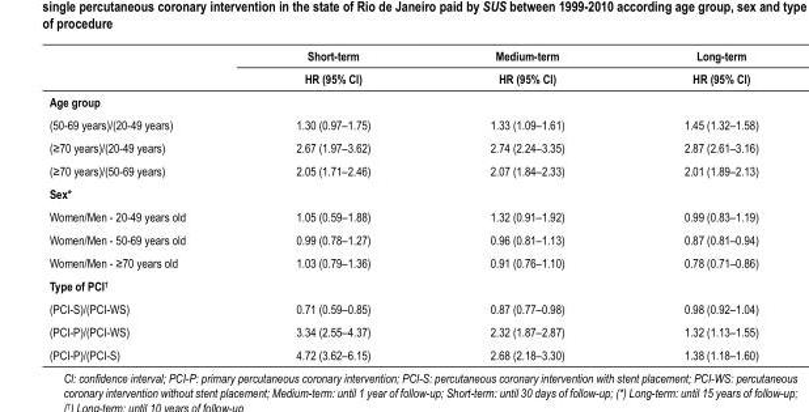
<table><thead><tr><td rowspan="2"></td><td rowspan="2">Short-term HR (95% Cl)</td><td rowspan="2">Medium-term HR (95% Cl)</td><td rowspan="2">Long-term HR (95% Cl)</td></tr><tr></tr></thead><tbody><tr><td colspan="4">Age group</td></tr><tr><td>(50-69 years)/(20-49 years)</td><td>1.30 (0.97–1.75)</td><td>1.33 (1.09–1.61)</td><td>1.45 (1.32–1.58)</td></tr><tr><td>(≥70 years)/(20-49 years)</td><td>2.67 (1.97–3.62)</td><td>2.74 (2.24–3.35)</td><td>2.87 (2.61–3.16)</td></tr><tr><td>(≥70 years)/(50-69 years)</td><td>2.05 (1.71–2.46)</td><td>2.07 (1.84–2.33)</td><td>2.01 (1.89–2.13)</td></tr><tr><td colspan="4">Sex*</td></tr><tr><td>Women/Men - 20-49 years old</td><td>1.05 (0.59–1.88)</td><td>1.32 (0.91–1.92)</td><td>0.99 (0.83–1.19)</td></tr><tr><td>Women/Men - 50-69 years old</td><td>0.99 (0.78–1.27)</td><td>0.96 (0.81–1.13)</td><td>0.87 (0.81–0.94)</td></tr><tr><td>Women/Men - ≥70 years old</td><td>1.03 (0.79–1.36)</td><td>0.91 (0.76–1.10)</td><td>0.78 (0.71–0.86)</td></tr><tr><td colspan="4">Type of PCI<sup>†</sup></td></tr><tr><td>(PCI-S)/(PCI-WS)</td><td>0.71 (0.59–0.85)</td><td>0.87 (0.77–0.98)</td><td>0.98 (0.92–1.04)</td></tr><tr><td>(PCI-P)/(PCI-WS)</td><td>3.34 (2.55–4.37)</td><td>2.32 (1.87–2.87)</td><td>1.32 (1.13–1.55)</td></tr><tr><td>(PCI-P)/(PCI-S)</td><td>4.72 (3.62–6.15)</td><td>2.68 (2.18–3.30)</td><td>1.38 (1.18–1.60)</td></tr></tbody></table>